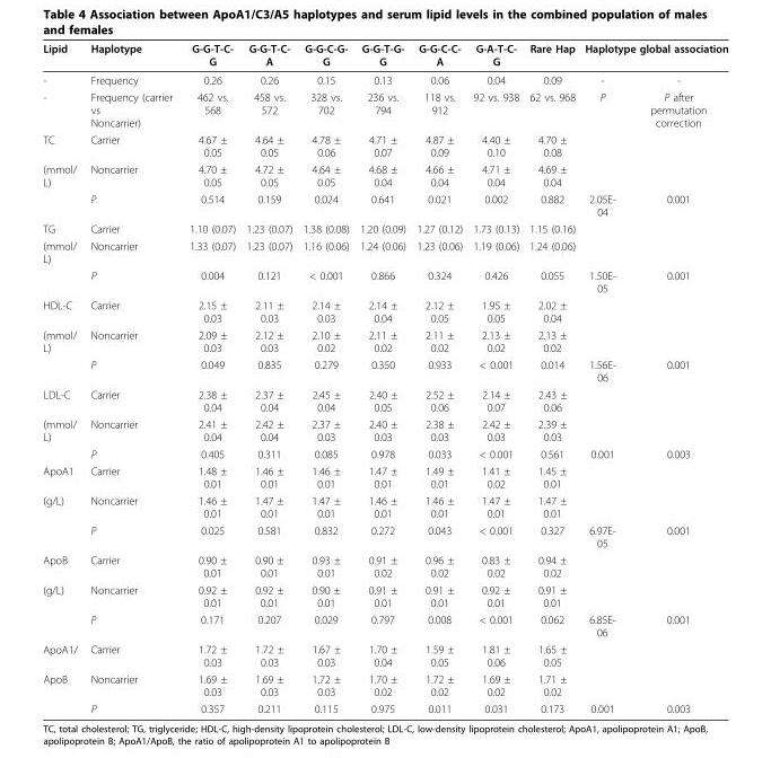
<table><thead><tr><td rowspan="2">Lipid -</td><td rowspan="2">Haplotype Frequency</td><td rowspan="2">G-G-T-C- G 0.26</td><td rowspan="2">G-G-T-C- A 0.26</td><td rowspan="2">G-G-C-G- G 0.15</td><td rowspan="2">G-G-T-G- G 0.13</td><td rowspan="2">G-G-C-C- A 0.06</td><td rowspan="2">G-A-T-C- G 0.04</td><td rowspan="2">Rare Hap 0.09</td><td colspan="2">Haplotype global association</td></tr><tr><td>-</td><td>-</td></tr></thead><tbody><tr><td>-</td><td>Frequency (carrier vs Noncarrier)</td><td>462 vs. 568</td><td>458 vs. 572</td><td>328 vs. 702</td><td>236 vs. 794</td><td>118 vs. 912</td><td>92 vs. 938</td><td>62 vs. 968</td><td>P</td><td>P after permutation correction</td></tr><tr><td>TC</td><td>Carrier</td><td>4.67 ± 0.05</td><td>4.64 ± 0.05</td><td>4.78 ± 0.06</td><td>4.71 ± 0.07</td><td>4.87 ± 0.09</td><td>4.40 ± 0.10</td><td>4.70 ± 0.08</td><td></td><td></td></tr><tr><td rowspan="2">(mmol/ L)</td><td>Noncarrier</td><td>4.70 ± 0.05</td><td>4.72 ± 0.05</td><td>4.64 ± 0.05</td><td>4.68 ± 0.04</td><td>4.66 ± 0.04</td><td>4.71 ± 0.04</td><td>4.69 ± 0.04</td><td></td><td></td></tr><tr><td>P</td><td>0.514</td><td>0.159</td><td>0.024</td><td>0.641</td><td>0.021</td><td>0.002</td><td>0.882</td><td>2.05E- 04</td><td>0.001</td></tr><tr><td>TG</td><td>Carrier</td><td>1.10 (0.07)</td><td>1.23 (0.07)</td><td>1.38 (0.08)</td><td>1.20 (0.09)</td><td>1.27 (0.12)</td><td>1.73 (0.13)</td><td>1.15 (0.16)</td><td></td><td></td></tr><tr><td rowspan="2">(mmol/ L)</td><td>Noncarrier</td><td>1.33 (0.07)</td><td>1.23 (0.07)</td><td>1.16 (0.06)</td><td>1.24 (0.06)</td><td>1.23 (0.06)</td><td>1.19 (0.06)</td><td>1.24 (0.06)</td><td></td><td></td></tr><tr><td>P</td><td>0.004</td><td>0.121</td><td>&lt; 0.001</td><td>0.866</td><td>0.324</td><td>0.426</td><td>0.055</td><td>1.50E- 05</td><td>0.001</td></tr><tr><td>HDL-C</td><td>Carrier</td><td>2.15 ± 0.03</td><td>2.11 ± 0.03</td><td>2.14 ± 0.03</td><td>2.14 ± 0.04</td><td>2.12 ± 0.05</td><td>1.95 ± 0.05</td><td>2.02 ± 0.04</td><td></td><td></td></tr><tr><td rowspan="2">(mmol/ L)</td><td>Noncarrier</td><td>2.09 ± 0.03</td><td>2.12 ± 0.03</td><td>2.10 ± 0.02</td><td>2.11 ± 0.02</td><td>2.11 ± 0.02</td><td>2.13 ± 0.02</td><td>2.13 ± 0.02</td><td></td><td></td></tr><tr><td>P</td><td>0.049</td><td>0.835</td><td>0.279</td><td>0.350</td><td>0.933</td><td>&lt; 0.001</td><td>0.014</td><td>1.56E- 06</td><td>0.001</td></tr><tr><td>LDL-C</td><td>Carrier</td><td>2.38 ± 0.04</td><td>2.37 ± 0.04</td><td>2.45 ± 0.04</td><td>2.40 ± 0.05</td><td>2.52 ± 0.06</td><td>2.14 ± 0.07</td><td>2.43 ± 0.06</td><td></td><td></td></tr><tr><td rowspan="2">(mmol/ L)</td><td>Noncarrier</td><td>2.41 ± 0.04</td><td>2.42 ± 0.04</td><td>2.37 ± 0.03</td><td>2.40 ± 0.03</td><td>2.38 ± 0.03</td><td>2.42 ± 0.03</td><td>2.39 ± 0.03</td><td></td><td></td></tr><tr><td>P</td><td>0.405</td><td>0.311</td><td>0.085</td><td>0.978</td><td>0.033</td><td>&lt; 0.001</td><td>0.561</td><td>0.001</td><td>0.003</td></tr><tr><td>ApoA1</td><td>Carrier</td><td>1.48 ± 0.01</td><td>1.46 ± 0.01</td><td>1.46 ± 0.01</td><td>1.47 ± 0.01</td><td>1.49 ± 0.01</td><td>1.41 ± 0.02</td><td>1.45 ± 0.01</td><td></td><td></td></tr><tr><td rowspan="2">(g/L)</td><td>Noncarrier</td><td>1.46 ± 0.01</td><td>1.47 ± 0.01</td><td>1.47 ± 0.01</td><td>1.46 ± 0.01</td><td>1.46 ± 0.01</td><td>1.47 ± 0.01</td><td>1.47 ± 0.01</td><td></td><td></td></tr><tr><td>P</td><td>0.025</td><td>0.581</td><td>0.832</td><td>0.272</td><td>0.043</td><td>&lt; 0.001</td><td>0.327</td><td>6.97E- 05</td><td>0.001</td></tr><tr><td>ApoB</td><td>Carrier</td><td>0.90 ± 0.01</td><td>0.90 ± 0.01</td><td>0.93 ± 0.01</td><td>0.91 ± 0.02</td><td>0.96 ± 0.02</td><td>0.83 ± 0.02</td><td>0.94 ± 0.02</td><td></td><td></td></tr><tr><td rowspan="2">(g/L)</td><td>Noncarrier</td><td>0.92 ± 0.01</td><td>0.92 ± 0.01</td><td>0.90 ± 0.01</td><td>0.91 ± 0.01</td><td>0.91 ± 0.01</td><td>0.92 ± 0.01</td><td>0.91 ± 0.01</td><td></td><td></td></tr><tr><td>P</td><td>0.171</td><td>0.207</td><td>0.029</td><td>0.797</td><td>0.008</td><td>&lt; 0.001</td><td>0.062</td><td>6.85E- 06</td><td>0.001</td></tr><tr><td>ApoA1/</td><td>Carrier</td><td>1.72 ± 0.03</td><td>1.72 ± 0.03</td><td>1.67 ± 0.03</td><td>1.70 ± 0.04</td><td>1.59 ± 0.05</td><td>1.81 ± 0.06</td><td>1.65 ± 0.05</td><td></td><td></td></tr><tr><td rowspan="2">ApoB</td><td>Noncarrier</td><td>1.69 ± 0.03</td><td>1.69 ± 0.03</td><td>1.72 ± 0.03</td><td>1.70 ± 0.02</td><td>1.72 ± 0.02</td><td>1.69 ± 0.02</td><td>1.71 ± 0.02</td><td></td><td></td></tr><tr><td>P</td><td>0.357</td><td>0.211</td><td>0.115</td><td>0.975</td><td>0.011</td><td>0.031</td><td>0.173</td><td>0.001</td><td>0.003</td></tr></tbody></table>